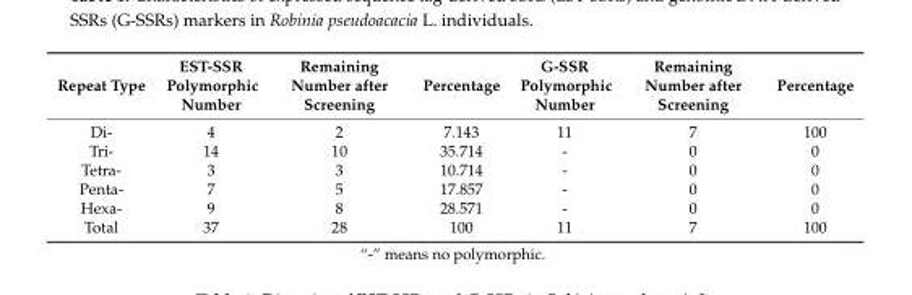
<table><thead><tr><td>Repeat Type</td><td>EST-SSR Polymorphic Number</td><td>Remaining Number after Screening</td><td>Percentage</td><td>G-SSR Polymorphic Number</td><td>Remaining Number after Screening</td><td>Percentage</td></tr></thead><tbody><tr><td>Di-</td><td>4</td><td>2</td><td>7.143</td><td>11</td><td>7</td><td>100</td></tr><tr><td>Tri-</td><td>14</td><td>10</td><td>35.714</td><td>-</td><td>0</td><td>0</td></tr><tr><td>Tetra-</td><td>3</td><td>3</td><td>10.714</td><td>-</td><td>0</td><td>0</td></tr><tr><td>Penta-</td><td>7</td><td>5</td><td>17.857</td><td>-</td><td>0</td><td>0</td></tr><tr><td>Hexa-</td><td>9</td><td>8</td><td>28.571</td><td>-</td><td>0</td><td>0</td></tr><tr><td>Total</td><td>37</td><td>28</td><td>100</td><td>11</td><td>7</td><td>100</td></tr></tbody></table>